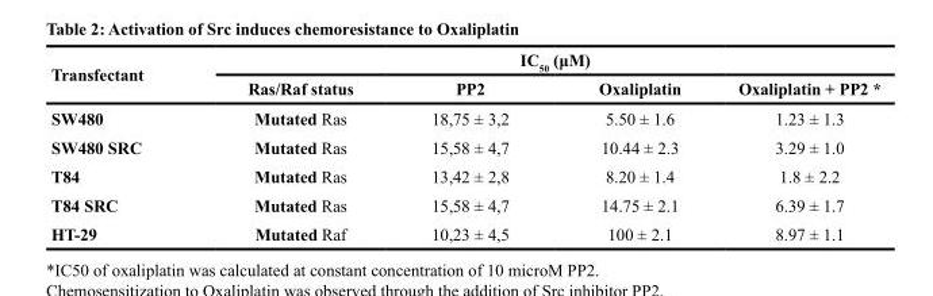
<table><thead><tr><td rowspan="2">Transfectant</td><td colspan="4">IC<sub>50</sub> (μM)</td></tr><tr><td>Ras/Raf status</td><td>PP2</td><td>Oxaliplatin</td><td>Oxaliplatin + PP2 *</td></tr></thead><tbody><tr><td>SW480</td><td>Mutated Ras</td><td>18,75 ± 3,2</td><td>5.50 ± 1.6</td><td>1.23 ± 1.3</td></tr><tr><td>SW480 SRC</td><td>Mutated Ras</td><td>15,58 ± 4,7</td><td>10.44 ± 2.3</td><td>3.29 ± 1.0</td></tr><tr><td>T84</td><td>Mutated Ras</td><td>13,42 ± 2,8</td><td>8.20 ± 1.4</td><td>1.8 ± 2.2</td></tr><tr><td>T84 SRC</td><td>Mutated Ras</td><td>15,58 ± 4,7</td><td>14.75 ± 2.1</td><td>6.39 ± 1.7</td></tr><tr><td>HT-29</td><td>Mutated Raf</td><td>10,23 ± 4,5</td><td>100 ± 2.1</td><td>8.97 ± 1.1</td></tr></tbody></table>